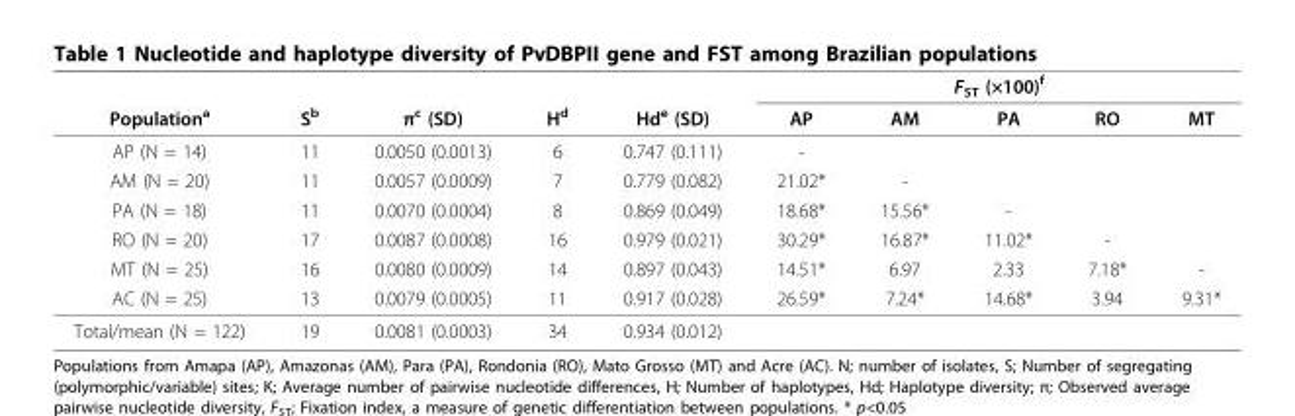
<table><thead><tr><td rowspan="2">Population<sup>a</sup></td><td rowspan="2">S<sup>b</sup></td><td rowspan="2">π<sup>c</sup> (SD)</td><td rowspan="2">H<sup>d</sup></td><td rowspan="2">Hd<sup>e</sup> (SD)</td><td colspan="5">F<sub>ST</sub> (×100)<sup>f</sup></td></tr><tr><td>AP</td><td>AM</td><td>PA</td><td>RO</td><td>MT</td></tr></thead><tbody><tr><td>AP (N = 14)</td><td>11</td><td>0.0050 (0.0013)</td><td>6</td><td>0.747 (0.111)</td><td>-</td><td></td><td></td><td></td><td></td></tr><tr><td>AM (N = 20)</td><td>11</td><td>0.0057 (0.0009)</td><td>7</td><td>0.779 (0.082)</td><td>21.02*</td><td>-</td><td></td><td></td><td></td></tr><tr><td>PA (N = 18)</td><td>11</td><td>0.0070 (0.0004)</td><td>8</td><td>0.869 (0.049)</td><td>18.68*</td><td>15.56*</td><td>-</td><td></td><td></td></tr><tr><td>RO (N = 20)</td><td>17</td><td>0.0087 (0.0008)</td><td>16</td><td>0.979 (0.021)</td><td>30.29*</td><td>16.87*</td><td>11.02*</td><td>-</td><td></td></tr><tr><td>MT (N = 25)</td><td>16</td><td>0.0080 (0.0009)</td><td>14</td><td>0.897 (0.043)</td><td>14.51*</td><td>6.97</td><td>2.33</td><td>7.18*</td><td>-</td></tr><tr><td>AC (N = 25)</td><td>13</td><td>0.0079 (0.0005)</td><td>11</td><td>0.917 (0.028)</td><td>26.59*</td><td>7.24*</td><td>14.68*</td><td>3.94</td><td>9.31*</td></tr><tr><td>Total/mean (N = 122)</td><td>19</td><td>0.0081 (0.0003)</td><td>34</td><td>0.934 (0.012)</td><td></td><td></td><td></td><td></td><td></td></tr></tbody></table>